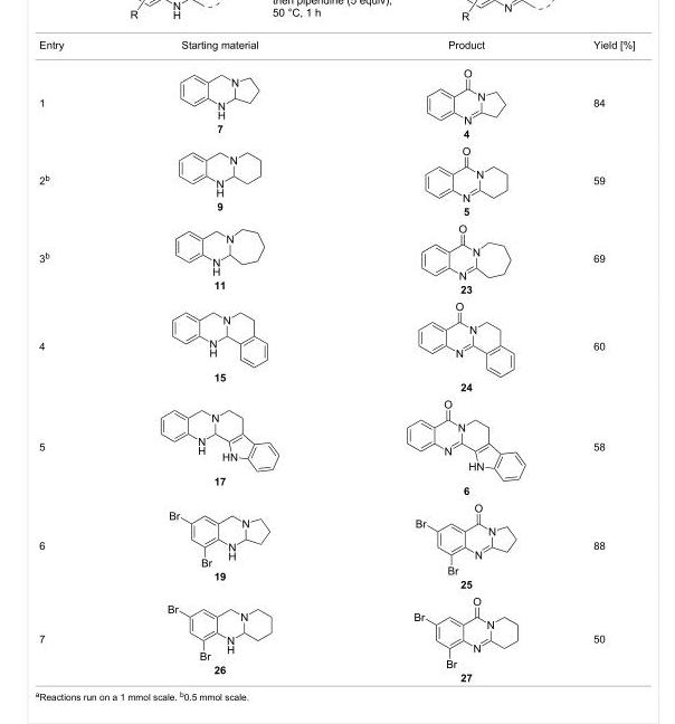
<table><tbody><tr><td>Entry</td><td>Starting material</td><td>Product</td><td>Yield [%]</td></tr><tr><td>1</td><td>7</td><td>4</td><td>84</td></tr><tr><td>2b</td><td>9</td><td>5</td><td>59</td></tr><tr><td>3b</td><td>11</td><td>23</td><td>69</td></tr><tr><td>4</td><td>15</td><td>24</td><td>60</td></tr><tr><td>5</td><td>17</td><td>6</td><td>58</td></tr><tr><td>6</td><td>19</td><td>25</td><td>88</td></tr><tr><td>7</td><td>26</td><td>27</td><td>50</td></tr></tbody></table>